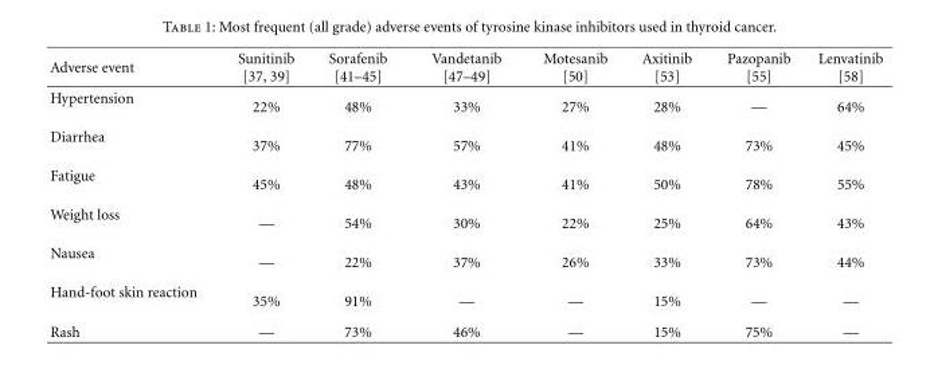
<table><thead><tr><td>Adverse event</td><td>Sunitinib [37, 39]</td><td>Sorafenib [41–45]</td><td>Vandetanib [47–49]</td><td>Motesanib [50]</td><td>Axitinib [53]</td><td>Pazopanib [55]</td><td>Lenvatinib [58]</td></tr></thead><tbody><tr><td>Hypertension</td><td>22%</td><td>48%</td><td>33%</td><td>27%</td><td>28%</td><td>—</td><td>64%</td></tr><tr><td>Diarrhea</td><td>37%</td><td>77%</td><td>57%</td><td>41%</td><td>48%</td><td>73%</td><td>45%</td></tr><tr><td>Fatigue</td><td>45%</td><td>48%</td><td>43%</td><td>41%</td><td>50%</td><td>78%</td><td>55%</td></tr><tr><td>Weight loss</td><td>—</td><td>54%</td><td>30%</td><td>22%</td><td>25%</td><td>64%</td><td>43%</td></tr><tr><td>Nausea</td><td>—</td><td>22%</td><td>37%</td><td>26%</td><td>33%</td><td>73%</td><td>44%</td></tr><tr><td>Hand-foot skin reaction</td><td>35%</td><td>91%</td><td>—</td><td>—</td><td>15%</td><td>—</td><td>—</td></tr><tr><td>Rash</td><td>—</td><td>73%</td><td>46%</td><td>—</td><td>15%</td><td>75%</td><td>—</td></tr></tbody></table>